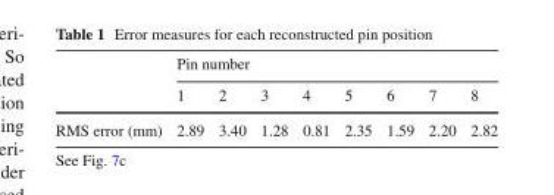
<table><thead><tr><td rowspan="2"></td><td colspan="8">Pin number</td></tr><tr><td>1</td><td>2</td><td>3</td><td>4</td><td>5</td><td>6</td><td>7</td><td>8</td></tr></thead><tbody><tr><td>RMS error (mm)</td><td>2.89</td><td>3.40</td><td>1.28</td><td>0.81</td><td>2.35</td><td>1.59</td><td>2.20</td><td>2.82</td></tr></tbody></table>